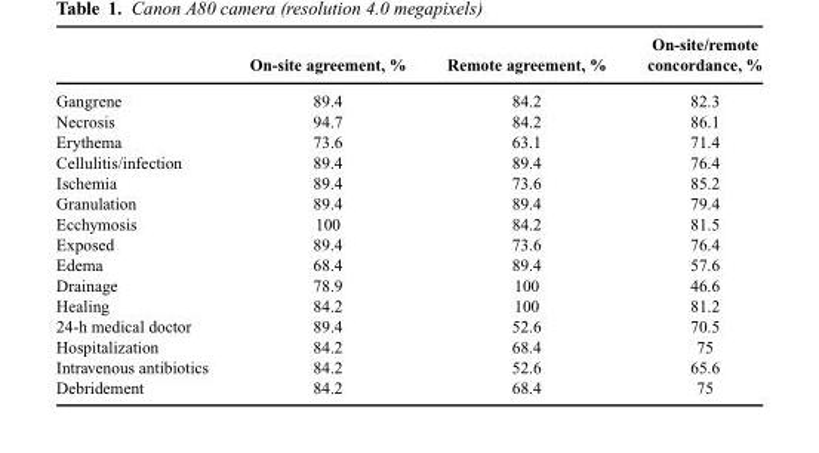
<table><thead><tr><td></td><td>On-site agreement, %</td><td>Remote agreement, %</td><td>concordance, %</td></tr></thead><tbody><tr><td>Gangrene</td><td>89.4</td><td>84.2</td><td>82.3</td></tr><tr><td>Necrosis</td><td>94.7</td><td>84.2</td><td>86.1</td></tr><tr><td>Erythema</td><td>73.6</td><td>63.1</td><td>71.4</td></tr><tr><td>Cellulitis/infection</td><td>89.4</td><td>89.4</td><td>76.4</td></tr><tr><td>Ischemia</td><td>89.4</td><td>73.6</td><td>85.2</td></tr><tr><td>Granulation</td><td>89.4</td><td>89.4</td><td>79.4</td></tr><tr><td>Ecchymosis</td><td>100</td><td>84.2</td><td>81.5</td></tr><tr><td>Exposed</td><td>89.4</td><td>73.6</td><td>76.4</td></tr><tr><td>Edema</td><td>68.4</td><td>89.4</td><td>57.6</td></tr><tr><td>Drainage</td><td>78.9</td><td>100</td><td>46.6</td></tr><tr><td>Healing</td><td>84.2</td><td>100</td><td>81.2</td></tr><tr><td>24-h medical doctor</td><td>89.4</td><td>52.6</td><td>70.5</td></tr><tr><td>Hospitalization</td><td>84.2</td><td>68.4</td><td>75</td></tr><tr><td>Intravenous antibiotics</td><td>84.2</td><td>52.6</td><td>65.6</td></tr><tr><td>Debridement</td><td>84.2</td><td>68.4</td><td>75</td></tr></tbody></table>